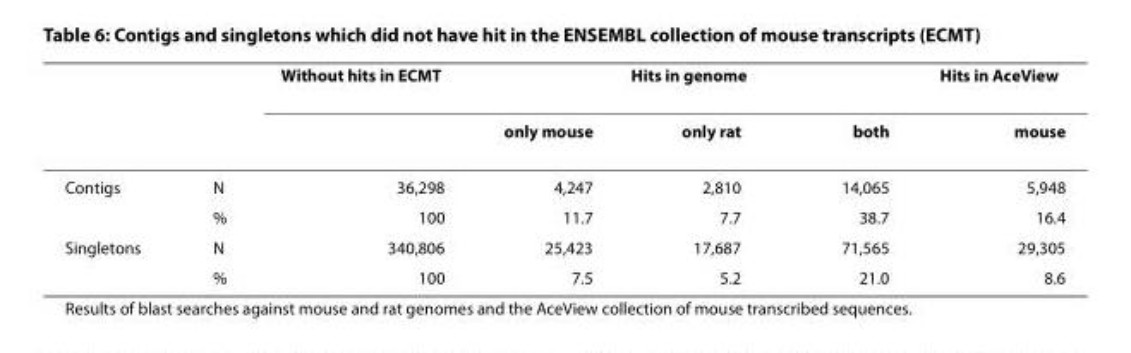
<table><thead><tr><td rowspan="2"></td><td rowspan="2"></td><td rowspan="2">Without hits in ECMT</td><td colspan="3">Hits in genome</td><td rowspan="2">Hits in AceView mouse</td></tr><tr><td>only mouse</td><td>only rat</td><td>both</td></tr></thead><tbody><tr><td rowspan="2">Contigs</td><td>N</td><td>36,298</td><td>4,247</td><td>2,810</td><td>14,065</td><td>5,948</td></tr><tr><td>%</td><td>100</td><td>11.7</td><td>7.7</td><td>38.7</td><td>16.4</td></tr><tr><td rowspan="2">Singletons</td><td>N</td><td>340,806</td><td>25,423</td><td>17,687</td><td>71,565</td><td>29,305</td></tr><tr><td>%</td><td>100</td><td>7.5</td><td>5.2</td><td>21.0</td><td>8.6</td></tr></tbody></table>